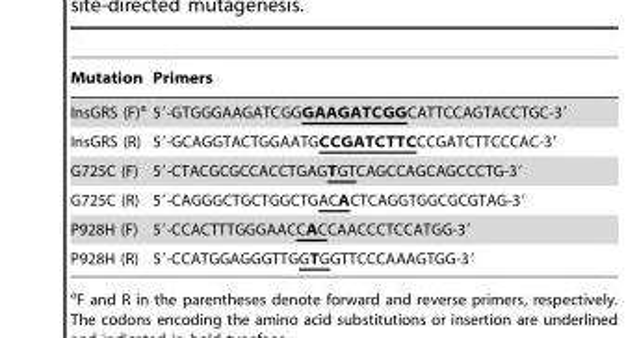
<table><thead><tr><td>Mutation</td><td>Primers</td></tr></thead><tbody><tr><td>InsGRS (F)<sup>a</sup></td><td>5′-GTGGGAAGATCGGGAAGATCGGCATTCCAGTACCTGC-3′</td></tr><tr><td>InsGRS (R)</td><td>5′-GCAGGTACTGGAATGCCGATCTTCCCGATCTTCCCAC-3′</td></tr><tr><td>G725C (F)</td><td>5′-CTACGCGCCACCTGAGTGTCAGCCAGCAGCCCTG-3′</td></tr><tr><td>G725C (R)</td><td>5′-CAGGGCTGCTGGCTGACACTCAGGTGGCGCGTAG-3′</td></tr><tr><td>P928H (F)</td><td>5′-CCACTTTGGGAACCACCAACCCTCCATGG-3′</td></tr><tr><td>P928H (R)</td><td>5′-CCATGGAGGGTTGGTGGTTCCCAAAGTGG-3′</td></tr></tbody></table>